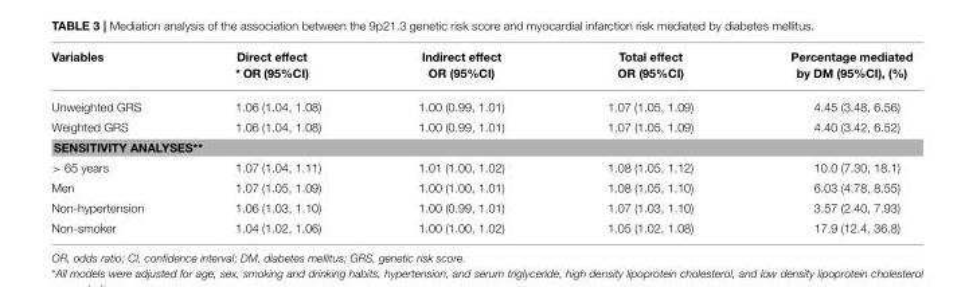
<table><thead><tr><td>Variables</td><td>Direct effect * OR (95%CI)</td><td>Indirect effect OR (95%CI)</td><td>Total effect OR (95%CI)</td><td>Percentage mediated by DM (95%CI), (%)</td></tr></thead><tbody><tr><td>Unweighted GRS</td><td>1.06 (1.04, 1.08)</td><td>1.00 (0.99, 1.01)</td><td>1.07 (1.05, 1.09)</td><td>4.45 (3.48, 6.56)</td></tr><tr><td>Weighted GRS</td><td>1.06 (1.04, 1.08)</td><td>1.00 (0.99, 1.01)</td><td>1.07 (1.05, 1.09)</td><td>4.40 (3.42, 6.52)</td></tr><tr><td colspan="5">SENSITIVITY ANALYSES**</td></tr><tr><td>&gt; 65 years</td><td>1.07 (1.04, 1.11)</td><td>1.01 (1.00, 1.02)</td><td>1.08 (1.05, 1.12)</td><td>10.0 (7.30, 18.1)</td></tr><tr><td>Men</td><td>1.07 (1.05, 1.09)</td><td>1.00 (1.00, 1.01)</td><td>1.08 (1.05, 1.10)</td><td>6.03 (4.78, 8.55)</td></tr><tr><td>Non-hypertension</td><td>1.06 (1.03, 1.10)</td><td>1.00 (0.99, 1.01)</td><td>1.07 (1.03, 1.10)</td><td>3.57 (2.40, 7.93)</td></tr><tr><td>Non-smoker</td><td>1.04 (1.02, 1.06)</td><td>1.00 (1.00, 1.02)</td><td>1.05 (1.02, 1.08)</td><td>17.9 (12.4, 36.8)</td></tr></tbody></table>